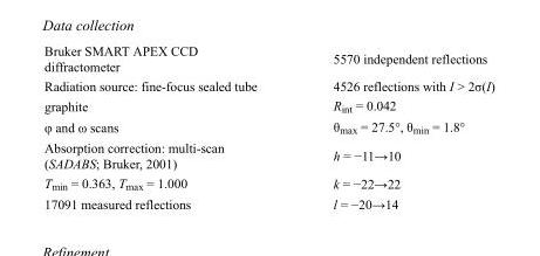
<table><tbody><tr><td>Bruker SMART APEX CCD diffractometer</td><td>5570 independent reflections</td></tr><tr><td>Radiation source: fine-focus sealed tube</td><td>4526 reflections with I &gt; 2σ(I)</td></tr><tr><td>graphite</td><td>R<sub>int</sub> = 0.042</td></tr><tr><td>φ and ω scans</td><td>θ<sub>max</sub> = 27.5°, θ<sub>min</sub> = 1.8°</td></tr><tr><td>Absorption correction: multi-scan (SADABS; Bruker, 2001)</td><td>h = −11→10</td></tr><tr><td>T<sub>min</sub> = 0.363, T<sub>max</sub> = 1.000</td><td>k = −22→22</td></tr><tr><td>17091 measured reflections</td><td>l = −20→14</td></tr></tbody></table>